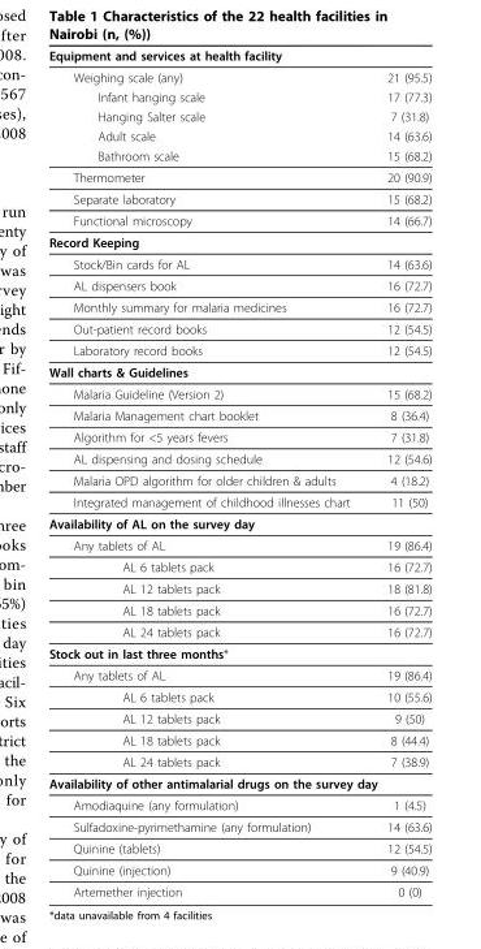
<table><thead><tr><td>Equipment and services at health facility</td><td></td></tr></thead><tbody><tr><td>Weighing scale (any)</td><td>21 (95.5)</td></tr><tr><td>Infant hanging scale</td><td>17 (77.3)</td></tr><tr><td>Hanging Salter scale</td><td>7 (31.8)</td></tr><tr><td>Adult scale</td><td>14 (63.6)</td></tr><tr><td>Bathroom scale</td><td>15 (68.2)</td></tr><tr><td>Thermometer</td><td>20 (90.9)</td></tr><tr><td>Separate laboratory</td><td>15 (68.2)</td></tr><tr><td>Functional microscopy</td><td>14 (66.7)</td></tr><tr><td colspan="2">Record Keeping</td></tr><tr><td>Stock/Bin cards for AL</td><td>14 (63.6)</td></tr><tr><td>AL dispensers book</td><td>16 (72.7)</td></tr><tr><td>Monthly summary for malaria medicines</td><td>16 (72.7)</td></tr><tr><td>Out-patient record books</td><td>12 (54.5)</td></tr><tr><td>Laboratory record books</td><td>12 (54.5)</td></tr><tr><td colspan="2">Wall charts &amp; Guidelines</td></tr><tr><td>Malaria Guideline (Version 2)</td><td>15 (68.2)</td></tr><tr><td>Malaria Management chart booklet</td><td>8 (36.4)</td></tr><tr><td>Algorithm for &lt;5 years fevers</td><td>7 (31.8)</td></tr><tr><td>AL dispensing and dosing schedule</td><td>12 (54.6)</td></tr><tr><td>Malaria OPD algorithm for older children &amp; adults</td><td>4 (18.2)</td></tr><tr><td>Integrated management of childhood illnesses chart</td><td>11 (50)</td></tr><tr><td colspan="2">Availability of AL on the survey day</td></tr><tr><td>Any tablets of AL</td><td>19 (86.4)</td></tr><tr><td>AL 6 tablets pack</td><td>16 (72.7)</td></tr><tr><td>AL 12 tablets pack</td><td>18 (81.8)</td></tr><tr><td>AL 18 tablets pack</td><td>16 (72.7)</td></tr><tr><td>AL 24 tablets pack</td><td>16 (72.7)</td></tr><tr><td colspan="2">Stock out in last three months*</td></tr><tr><td>Any tablets of AL</td><td>19 (86.4)</td></tr><tr><td>AL 6 tablets pack</td><td>10 (55.6)</td></tr><tr><td>AL 12 tablets pack</td><td>9 (50)</td></tr><tr><td>AL 18 tablets pack</td><td>8 (44.4)</td></tr><tr><td>AL 24 tablets pack</td><td>7 (38.9)</td></tr><tr><td colspan="2">Availability of other antimalarial drugs on the survey day</td></tr><tr><td>Amodiaquine (any formulation)</td><td>1 (4.5)</td></tr><tr><td>Sulfadoxine-pyrimethamine (any formulation)</td><td>14 (63.6)</td></tr><tr><td>Quinine (tablets)</td><td>12 (54.5)</td></tr><tr><td>Quinine (injection)</td><td>9 (40.9)</td></tr><tr><td>Artemether injection</td><td>0 (0)</td></tr></tbody></table>